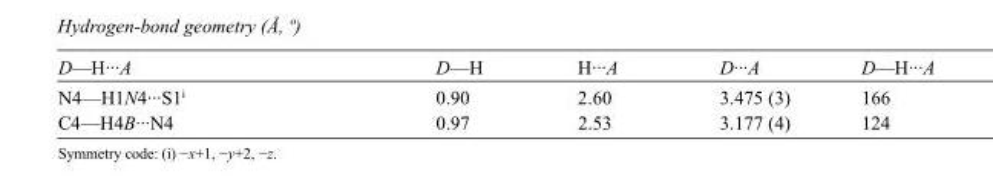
<table><tbody><tr><td>D—H···A</td><td>D—H</td><td>H···A</td><td>D···A</td><td>D—H···A</td></tr><tr><td>N4—H1N4···S1<sup>i</sup></td><td>0.90</td><td>2.60</td><td>3.475 (3)</td><td>166</td></tr><tr><td>C4—H4B···N4</td><td>0.97</td><td>2.53</td><td>3.177 (4)</td><td>124</td></tr></tbody></table>